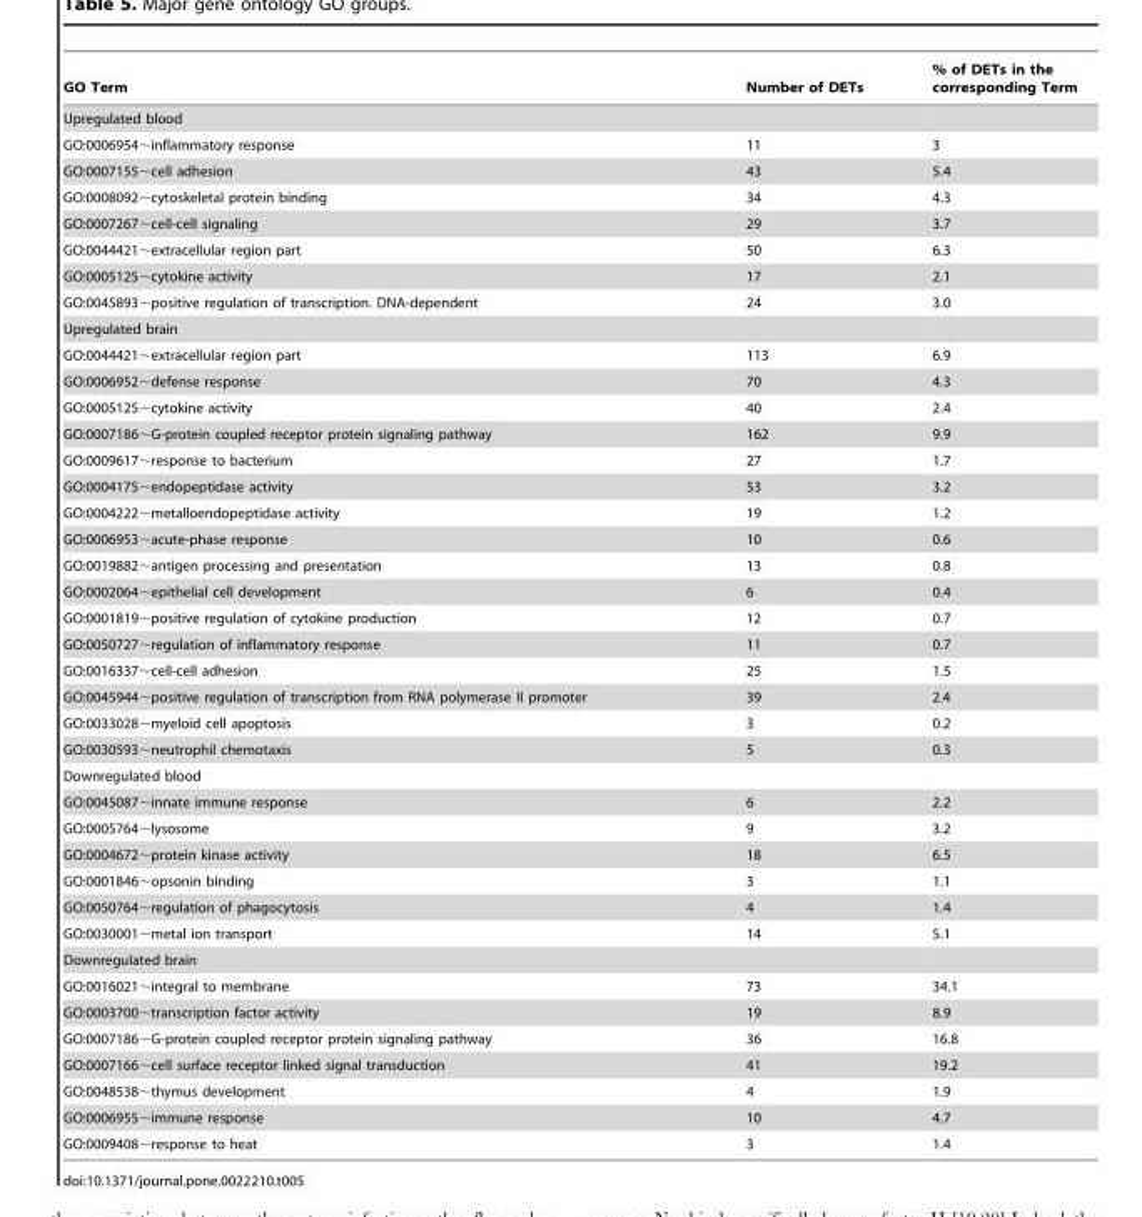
<table><thead><tr><td>GO Term</td><td>Number of DETs</td><td>% of DETs in the corresponding Term</td></tr></thead><tbody><tr><td colspan="3">Upregulated blood</td></tr><tr><td>GO:0006954∼inflammatory response</td><td>11</td><td>3</td></tr><tr><td>GO:0007155∼cell adhesion</td><td>43</td><td>5.4</td></tr><tr><td>GO:0008092∼cytoskeletal protein binding</td><td>34</td><td>4.3</td></tr><tr><td>GO:0007267∼cell-cell signaling</td><td>29</td><td>3.7</td></tr><tr><td>GO:0044421∼extracellular region part</td><td>50</td><td>6.3</td></tr><tr><td>GO:0005125∼cytokine activity</td><td>17</td><td>2.1</td></tr><tr><td>GO:0045893∼positive regulation of transcription. DNA-dependent</td><td>24</td><td>3.0</td></tr><tr><td colspan="3">Upregulated brain</td></tr><tr><td>GO:0044421∼extracellular region part</td><td>113</td><td>6.9</td></tr><tr><td>GO:0006952∼defense response</td><td>70</td><td>4.3</td></tr><tr><td>GO:0005125∼cytokine activity</td><td>40</td><td>2.4</td></tr><tr><td>GO:0007186∼G-protein coupled receptor protein signaling pathway</td><td>162</td><td>9.9</td></tr><tr><td>GO:0009617∼response to bacterium</td><td>27</td><td>1.7</td></tr><tr><td>GO:0004175∼endopeptidase activity</td><td>53</td><td>3.2</td></tr><tr><td>GO:0004222∼metalloendopeptidase activity</td><td>19</td><td>1.2</td></tr><tr><td>GO:0006953∼acute-phase response</td><td>10</td><td>0.6</td></tr><tr><td>GO:0019882∼antigen processing and presentation</td><td>13</td><td>0.8</td></tr><tr><td>GO:0002064∼epithelial cell development</td><td>6</td><td>0.4</td></tr><tr><td>GO:0001819∼positive regulation of cytokine production</td><td>12</td><td>0.7</td></tr><tr><td>GO:0050727∼regulation of inflammatory response</td><td>11</td><td>0.7</td></tr><tr><td>GO:0016337∼cell-cell adhesion</td><td>25</td><td>1.5</td></tr><tr><td>GO:0045944∼positive regulation of transcription from RNA polymerase II promoter</td><td>39</td><td>2.4</td></tr><tr><td>GO:0033028∼myeloid cell apoptosis</td><td>3</td><td>0.2</td></tr><tr><td>GO:0030593∼neutrophil chemotaxis</td><td>5</td><td>0.3</td></tr><tr><td colspan="3">Downregulated blood</td></tr><tr><td>GO:0045087∼innate immune response</td><td>6</td><td>2.2</td></tr><tr><td>GO:0005764∼lysosome</td><td>9</td><td>3.2</td></tr><tr><td>GO:0004672∼protein kinase activity</td><td>18</td><td>6.5</td></tr><tr><td>GO:0001846∼opsonin binding</td><td>3</td><td>1.1</td></tr><tr><td>GO:0050764∼regulation of phagocytosis</td><td>4</td><td>1.4</td></tr><tr><td>GO:0030001∼metal ion transport</td><td>14</td><td>5.1</td></tr><tr><td colspan="3">Downregulated brain</td></tr><tr><td>GO:0016021∼integral to membrane</td><td>73</td><td>34.1</td></tr><tr><td>GO:0003700∼transcription factor activity</td><td>19</td><td>8.9</td></tr><tr><td>GO:0007186∼G-protein coupled receptor protein signaling pathway</td><td>36</td><td>16.8</td></tr><tr><td>GO:0007166∼cell surface receptor linked signal transduction</td><td>41</td><td>19.2</td></tr><tr><td>GO:0048538∼thymus development</td><td>4</td><td>1.9</td></tr><tr><td>GO:0006955∼immune response</td><td>10</td><td>4.7</td></tr><tr><td>GO:0009408∼response to heat</td><td>3</td><td>1.4</td></tr></tbody></table>